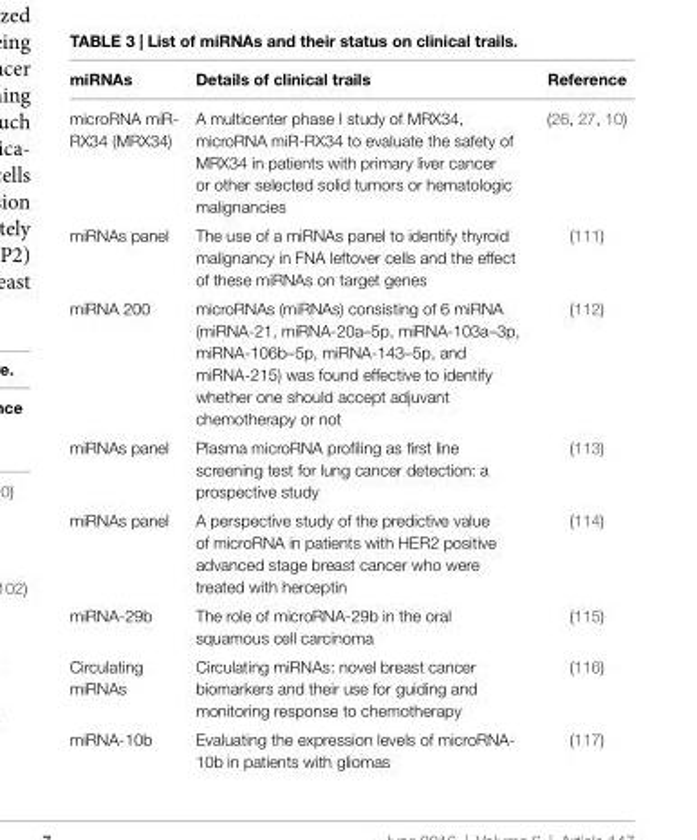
<table><thead><tr><td>miRNAs</td><td>Details of clinical trails</td><td>Reference</td></tr></thead><tbody><tr><td>microRNA miR- RX34 (MRX34)</td><td>A multicenter phase I study of MRX34, microRNA miR-RX34 to evaluate the safety of MRX34 in patients with primary liver cancer or other selected solid tumors or hematologic malignancies</td><td>(26, 27, 10)</td></tr><tr><td>miRNAs panel</td><td>The use of a miRNAs panel to identify thyroid malignancy in FNA leftover cells and the effect of these miRNAs on target genes</td><td>(111)</td></tr><tr><td>miRNA 200</td><td>microRNAs (miRNAs) consisting of 6 miRNA (miRNA-21, miRNA-20a–5p, miRNA-103a–3p, miRNA-106b–5p, miRNA-143–5p, and miRNA-215) was found effective to identify whether one should accept adjuvant chemotherapy or not</td><td>(112)</td></tr><tr><td>miRNAs panel</td><td>Plasma microRNA profiling as first line screening test for lung cancer detection: a prospective study</td><td>(113)</td></tr><tr><td>miRNAs panel</td><td>A perspective study of the predictive value of microRNA in patients with HER2 positive advanced stage breast cancer who were treated with herceptin</td><td>(114)</td></tr><tr><td>miRNA-29b</td><td>The role of microRNA-29b in the oral squamous cell carcinoma</td><td>(115)</td></tr><tr><td>Circulating miRNAs</td><td>Circulating miRNAs: novel breast cancer biomarkers and their use for guiding and monitoring response to chemotherapy</td><td>(116)</td></tr><tr><td>miRNA-10b</td><td>Evaluating the expression levels of microRNA- 10b in patients with gliomas</td><td>(117)</td></tr></tbody></table>